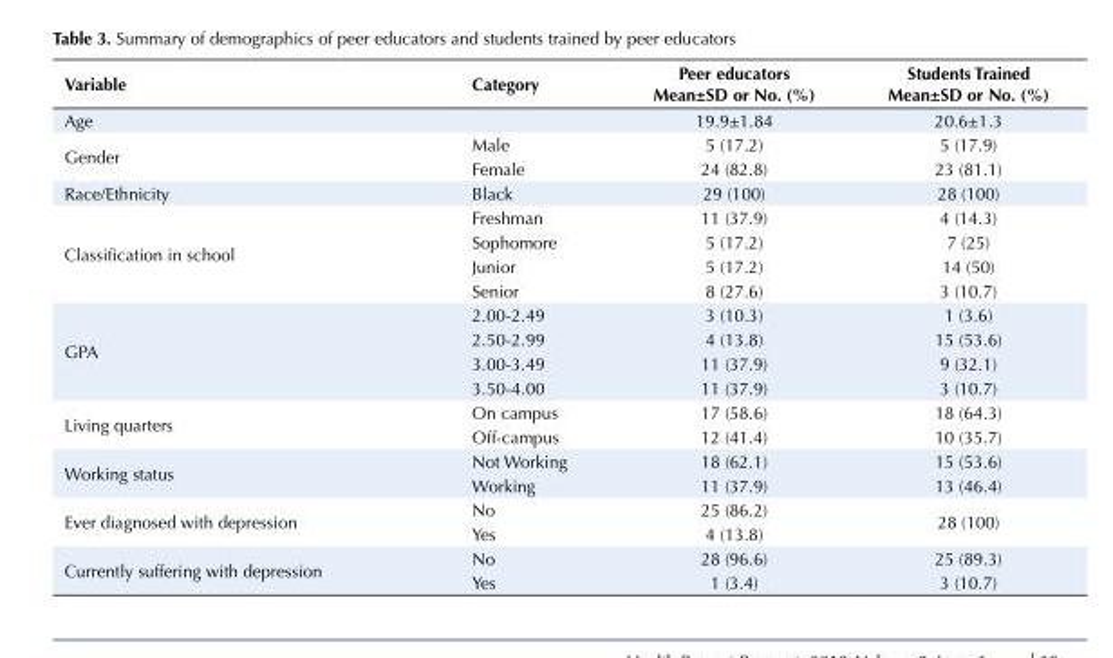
<table><tbody><tr><td>Variable</td><td>Category</td><td>Peer educators Mean±SD or No. (%)</td><td>Students Trained Mean±SD or No. (%)</td></tr><tr><td>Age</td><td></td><td>19.9±1.84</td><td>20.6±1.3</td></tr><tr><td rowspan="2">Gender</td><td>Male</td><td>5 (17.2)</td><td>5 (17.9)</td></tr><tr><td>Female</td><td>24 (82.8)</td><td>23 (81.1)</td></tr><tr><td>Race/Ethnicity</td><td>Black</td><td>29 (100)</td><td>28 (100)</td></tr><tr><td rowspan="4">Classification in school</td><td>Freshman</td><td>11 (37.9)</td><td>4 (14.3)</td></tr><tr><td>Sophomore</td><td>5 (17.2)</td><td>7 (25)</td></tr><tr><td>Junior</td><td>5 (17.2)</td><td>14 (50)</td></tr><tr><td>Senior</td><td>8 (27.6)</td><td>3 (10.7)</td></tr><tr><td rowspan="4">GPA</td><td>2.00-2.49</td><td>3 (10.3)</td><td>1 (3.6)</td></tr><tr><td>2.50-2.99</td><td>4 (13.8)</td><td>15 (53.6)</td></tr><tr><td>3.00-3.49</td><td>11 (37.9)</td><td>9 (32.1)</td></tr><tr><td>3.50-4.00</td><td>11 (37.9)</td><td>3 (10.7)</td></tr><tr><td rowspan="2">Living quarters</td><td>On campus</td><td>17 (58.6)</td><td>18 (64.3)</td></tr><tr><td>Off-campus</td><td>12 (41.4)</td><td>10 (35.7)</td></tr><tr><td rowspan="2">Working status</td><td>Not Working</td><td>18 (62.1)</td><td>15 (53.6)</td></tr><tr><td>Working</td><td>11 (37.9)</td><td>13 (46.4)</td></tr><tr><td rowspan="2">Ever diagnosed with depression</td><td>No</td><td>25 (86.2)</td><td rowspan="2">28 (100)</td></tr><tr><td>Yes</td><td>4 (13.8)</td></tr><tr><td rowspan="2">Currently suffering with depression</td><td>No</td><td>28 (96.6)</td><td>25 (89.3)</td></tr><tr><td>Yes</td><td>1 (3.4)</td><td>3 (10.7)</td></tr></tbody></table>